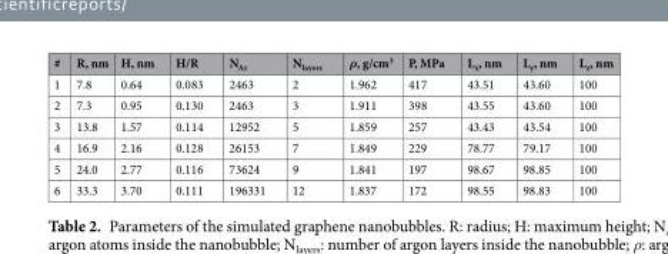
<table><thead><tr><td>#</td><td>R, nm</td><td>H, nm</td><td>H/R</td><td>N<sub>Ar</sub></td><td>N<sub>layers</sub></td><td>ρ, g/cm<sup>3</sup></td><td>P, MPa</td><td>L<sub>x</sub>, nm</td><td>L<sub>y</sub>, nm</td><td>L<sub>z</sub>, nm</td></tr></thead><tbody><tr><td>1</td><td>7.8</td><td>0.64</td><td>0.083</td><td>2463</td><td>2</td><td>1.962</td><td>417</td><td>43.51</td><td>43.60</td><td>100</td></tr><tr><td>2</td><td>7.3</td><td>0.95</td><td>0.130</td><td>2463</td><td>3</td><td>1.911</td><td>398</td><td>43.55</td><td>43.60</td><td>100</td></tr><tr><td>3</td><td>13.8</td><td>1.57</td><td>0.114</td><td>12952</td><td>5</td><td>1.859</td><td>257</td><td>43.43</td><td>43.54</td><td>100</td></tr><tr><td>4</td><td>16.9</td><td>2.16</td><td>0.128</td><td>26153</td><td>7</td><td>1.849</td><td>229</td><td>78.77</td><td>79.17</td><td>100</td></tr><tr><td>5</td><td>24.0</td><td>2.77</td><td>0.116</td><td>73624</td><td>9</td><td>1.841</td><td>197</td><td>98.67</td><td>98.85</td><td>100</td></tr><tr><td>6</td><td>33.3</td><td>3.70</td><td>0.111</td><td>196331</td><td>12</td><td>1.837</td><td>172</td><td>98.55</td><td>98.83</td><td>100</td></tr></tbody></table>